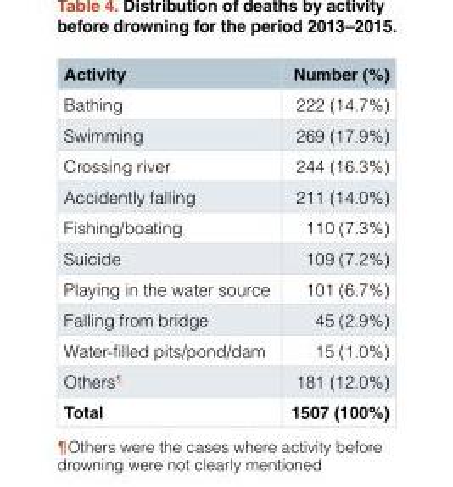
<table><thead><tr><td>Activity</td><td>Number (%)</td></tr></thead><tbody><tr><td>Bathing</td><td>222 (14.7%)</td></tr><tr><td>Swimming</td><td>269 (17.9%)</td></tr><tr><td>Crossing river</td><td>244 (16.3%)</td></tr><tr><td>Accidently falling</td><td>211 (14.0%)</td></tr><tr><td>Fishing/boating</td><td>110 (7.3%)</td></tr><tr><td>Suicide</td><td>109 (7.2%)</td></tr><tr><td>Playing in the water source</td><td>101 (6.7%)</td></tr><tr><td>Falling from bridge</td><td>45 (2.9%)</td></tr><tr><td>Water-filled pits/pond/dam</td><td>15 (1.0%)</td></tr><tr><td>Others<sup>¶</sup></td><td>181 (12.0%)</td></tr><tr><td>Total</td><td>1507 (100%)</td></tr></tbody></table>